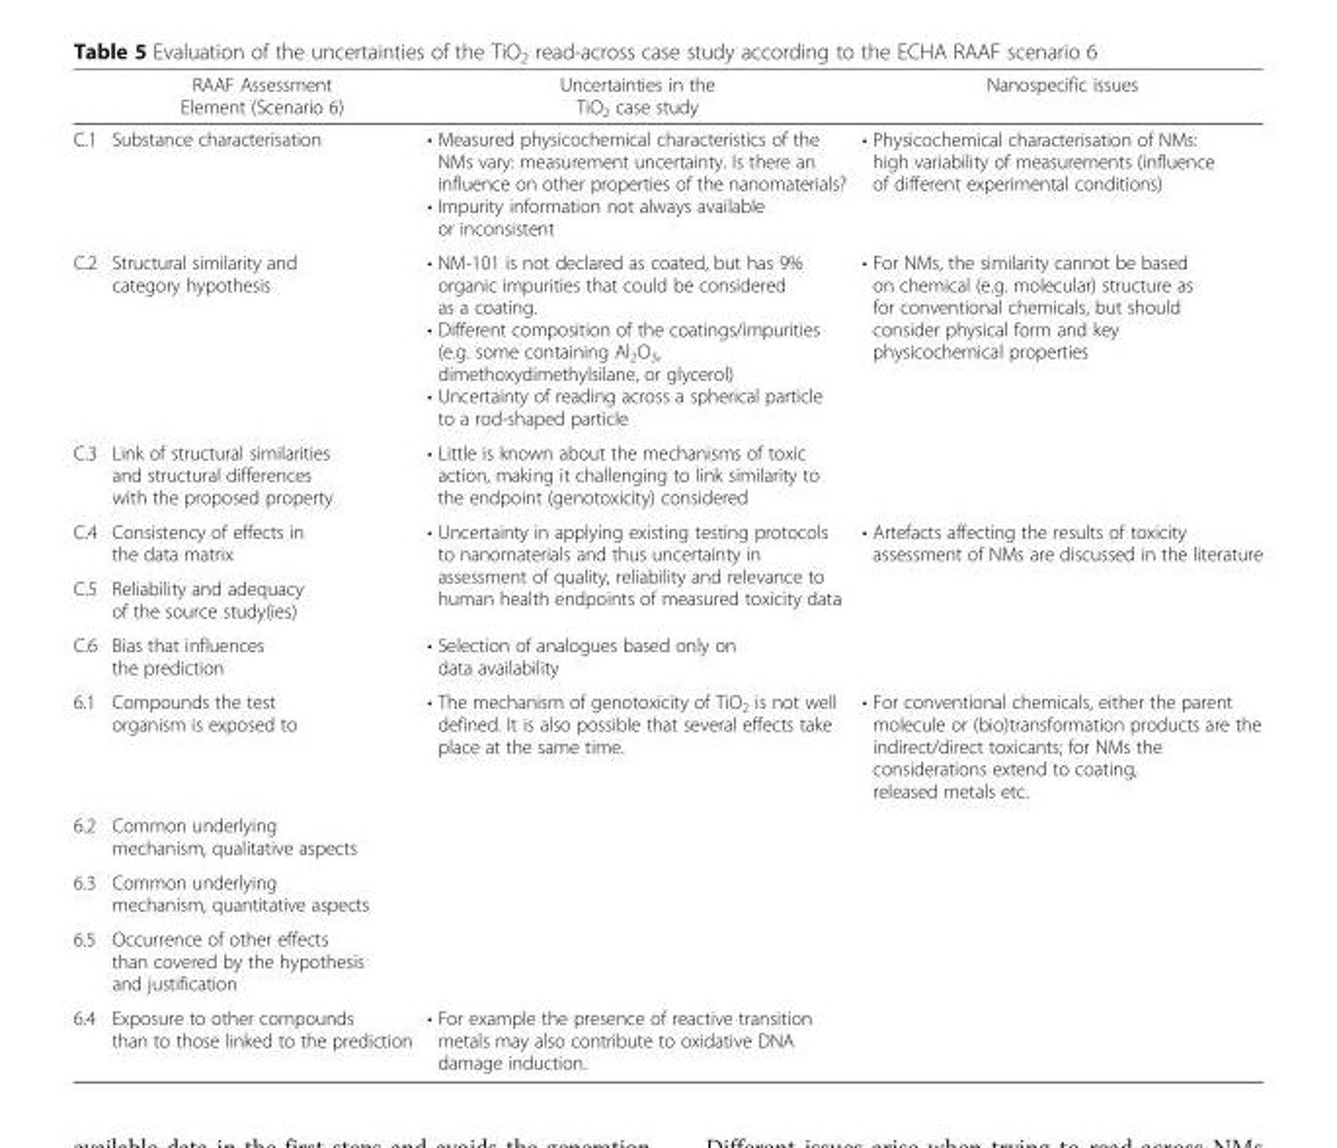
<table><thead><tr><td></td><td>RAAF Assessment Element (Scenario 6)</td><td>Uncertainties in the TiO<sub>2</sub> case study</td><td>Nanospecific issues</td></tr></thead><tbody><tr><td>C.1</td><td>Substance characterisation</td><td>• Measured physicochemical characteristics of the NMs vary: measurement uncertainty. Is there an influence on other properties of the nanomaterials? • Impurity information not always available or inconsistent</td><td>• Physicochemical characterisation of NMs: high variability of measurements (influence of different experimental conditions)</td></tr><tr><td>C.2</td><td>Structural similarity and category hypothesis</td><td>• NM-101 is not declared as coated, but has 9% organic impurities that could be considered as a coating. • Different composition of the coatings/impurities (e.g. some containing Al<sub>2</sub>O<sub>3</sub>, dimethoxydimethylsilane, or glycerol) • Uncertainty of reading across a spherical particle to a rod-shaped particle</td><td rowspan="2">• For NMs, the similarity cannot be based on chemical (e.g. molecular) structure as for conventional chemicals, but should consider physical form and key physicochemical properties</td></tr><tr><td>C.3</td><td>Link of structural similarities and structural differences with the proposed property</td><td>• Little is known about the mechanisms of toxic action, making it challenging to link similarity to the endpoint (genotoxicity) considered</td></tr><tr><td>C.4</td><td>Consistency of effects in the data matrix</td><td rowspan="2">• Uncertainty in applying existing testing protocols to nanomaterials and thus uncertainty in assessment of quality, reliability and relevance to human health endpoints of measured toxicity data</td><td rowspan="2">• Artefacts affecting the results of toxicity assessment of NMs are discussed in the literature</td></tr><tr><td>C.5</td><td>Reliability and adequacy of the source study(ies)</td></tr><tr><td>C.6</td><td>Bias that influences the prediction</td><td>• Selection of analogues based only on data availability</td><td></td></tr><tr><td>6.1</td><td>Compounds the test organism is exposed to</td><td rowspan="4">• The mechanism of genotoxicity of TiO<sub>2</sub> is not well defined. It is also possible that several effects take place at the same time.</td><td>• For conventional chemicals, either the parent molecule or (bio)transformation products are the indirect/direct toxicants; for NMs the considerations extend to coating, released metals etc.</td></tr><tr><td>6.2</td><td>Common underlying mechanism, qualitative aspects</td><td></td></tr><tr><td>6.3</td><td>Common underlying mechanism, quantitative aspects</td><td></td></tr><tr><td>6.5</td><td>Occurrence of other effects than covered by the hypothesis and justification</td><td></td></tr><tr><td>6.4</td><td>Exposure to other compounds than to those linked to the prediction</td><td>• For example the presence of reactive transition metals may also contribute to oxidative DNA damage induction.</td><td></td></tr></tbody></table>